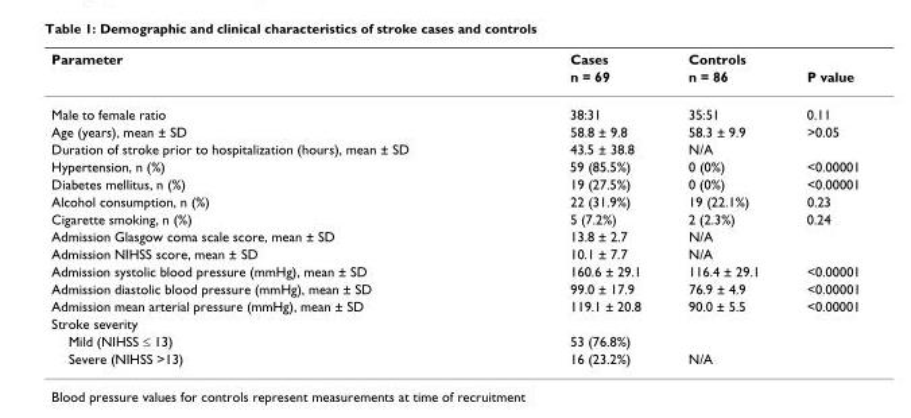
<table><thead><tr><td rowspan="2">Parameter</td><td rowspan="2">Cases n = 69</td><td rowspan="2">Controls n = 86</td><td rowspan="2">P value</td></tr><tr></tr></thead><tbody><tr><td>Male to female ratio</td><td>38:31</td><td>35:51</td><td>0.11</td></tr><tr><td>Age (years), mean ± SD</td><td>58.8 ± 9.8</td><td>58.3 ± 9.9</td><td>&gt;0.05</td></tr><tr><td>Duration of stroke prior to hospitalization (hours), mean ± SD</td><td>43.5 ± 38.8</td><td>N/A</td><td></td></tr><tr><td>Hypertension, n (%)</td><td>59 (85.5%)</td><td>0 (0%)</td><td>&lt;0.00001</td></tr><tr><td>Diabetes mellitus, n (%)</td><td>19 (27.5%)</td><td>0 (0%)</td><td>&lt;0.00001</td></tr><tr><td>Alcohol consumption, n (%)</td><td>22 (31.9%)</td><td>19 (22.1%)</td><td>0.23</td></tr><tr><td>Cigarette smoking, n (%)</td><td>5 (7.2%)</td><td>2 (2.3%)</td><td>0.24</td></tr><tr><td>Admission Glasgow coma scale score, mean ± SD</td><td>13.8 ± 2.7</td><td>N/A</td><td></td></tr><tr><td>Admission NIHSS score, mean ± SD</td><td>10.1 ± 7.7</td><td>N/A</td><td></td></tr><tr><td>Admission systolic blood pressure (mmHg), mean ± SD</td><td>160.6 ± 29.1</td><td>116.4 ± 29.1</td><td>&lt;0.00001</td></tr><tr><td>Admission diastolic blood pressure (mmHg), mean ± SD</td><td>99.0 ± 17.9</td><td>76.9 ± 4.9</td><td>&lt;0.00001</td></tr><tr><td>Admission mean arterial pressure (mmHg), mean ± SD</td><td>119.1 ± 20.8</td><td>90.0 ± 5.5</td><td>&lt;0.00001</td></tr><tr><td colspan="4">Stroke severity</td></tr><tr><td>Mild (NIHSS ≤ 13)</td><td>53 (76.8%)</td><td></td><td></td></tr><tr><td>Severe (NIHSS &gt;13)</td><td>16 (23.2%)</td><td>N/A</td><td></td></tr></tbody></table>